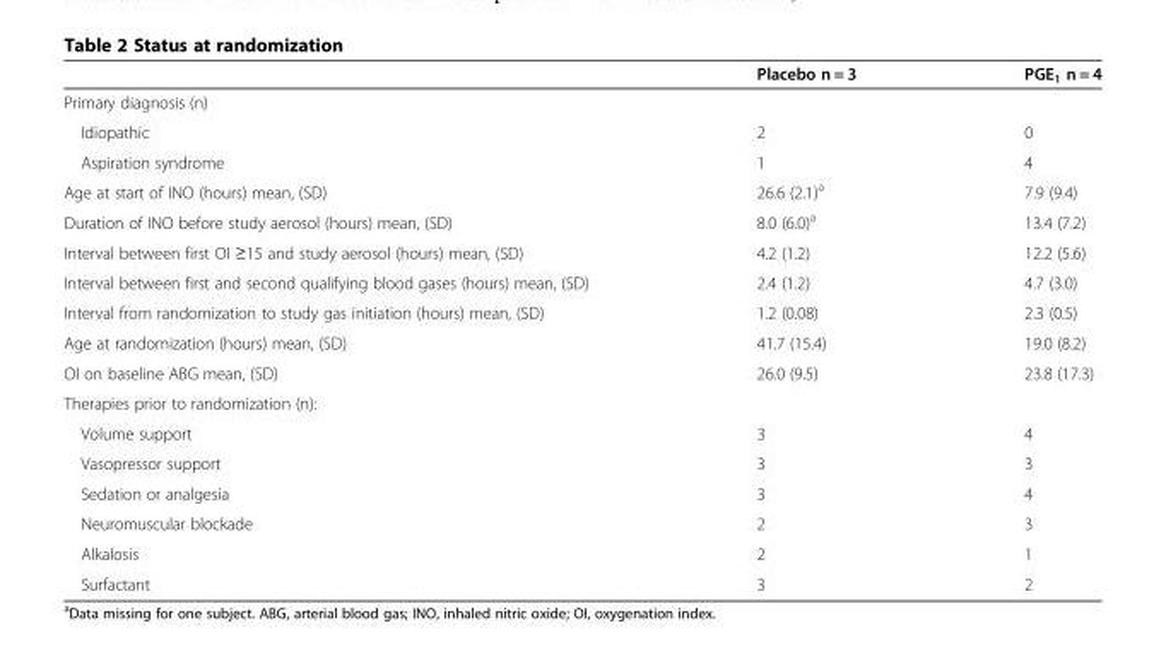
<table><thead><tr><td></td><td>Placebo n = 3</td><td>PGE<sub>1</sub> n = 4</td></tr></thead><tbody><tr><td colspan="3">Primary diagnosis (n)</td></tr><tr><td>Idiopathic</td><td>2</td><td>0</td></tr><tr><td>Aspiration syndrome</td><td>1</td><td>4</td></tr><tr><td>Age at start of INO (hours) mean, (SD)</td><td>26.6 (2.1)<sup>a</sup></td><td>7.9 (9.4)</td></tr><tr><td>Duration of INO before study aerosol (hours) mean, (SD)</td><td>8.0 (6.0)<sup>a</sup></td><td>13.4 (7.2)</td></tr><tr><td>Interval between first OI ≥15 and study aerosol (hours) mean, (SD)</td><td>4.2 (1.2)</td><td>12.2 (5.6)</td></tr><tr><td>Interval between first and second qualifying blood gases (hours) mean, (SD)</td><td>2.4 (1.2)</td><td>4.7 (3.0)</td></tr><tr><td>Interval from randomization to study gas initiation (hours) mean, (SD)</td><td>1.2 (0.08)</td><td>2.3 (0.5)</td></tr><tr><td>Age at randomization (hours) mean, (SD)</td><td>41.7 (15.4)</td><td>19.0 (8.2)</td></tr><tr><td>OI on baseline ABG mean, (SD)</td><td>26.0 (9.5)</td><td>23.8 (17.3)</td></tr><tr><td colspan="3">Therapies prior to randomization (n):</td></tr><tr><td>Volume support</td><td>3</td><td>4</td></tr><tr><td>Vasopressor support</td><td>3</td><td>3</td></tr><tr><td>Sedation or analgesia</td><td>3</td><td>4</td></tr><tr><td>Neuromuscular blockade</td><td>2</td><td>3</td></tr><tr><td>Alkalosis</td><td>2</td><td>1</td></tr><tr><td>Surfactant</td><td>3</td><td>2</td></tr></tbody></table>